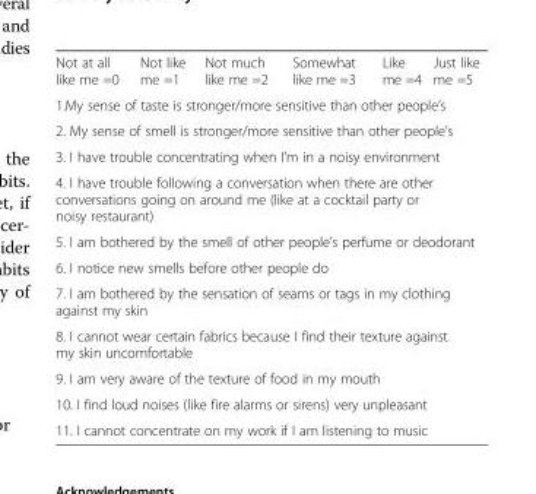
<table><tbody><tr><td>Not at all like me =0</td><td>Not like me =1</td><td>Not much like me =2</td><td>Somewhat like me =3</td><td>Like me =4</td><td>Just like me =5</td></tr><tr><td colspan="6">1.My sense of taste is stronger/more sensitive than other people’s</td></tr><tr><td colspan="6">2. My sense of smell is stronger/more sensitive than other people’s</td></tr><tr><td colspan="6">3. I have trouble concentrating when I’m in a noisy environment</td></tr><tr><td colspan="6">4. I have trouble following a conversation when there are other conversations going on around me (like at a cocktail party or noisy restaurant)</td></tr><tr><td colspan="6">5. I am bothered by the smell of other people’s perfume or deodorant</td></tr><tr><td colspan="6">6. I notice new smells before other people do</td></tr><tr><td colspan="6">7. I am bothered by the sensation of seams or tags in my clothing against my skin</td></tr><tr><td colspan="6">8. I cannot wear certain fabrics because I find their texture against my skin uncomfortable</td></tr><tr><td colspan="6">9. I am very aware of the texture of food in my mouth</td></tr><tr><td colspan="6">10. I find loud noises (like fire alarms or sirens) very unpleasant</td></tr><tr><td colspan="6">11. I cannot concentrate on my work if I am listening to music</td></tr></tbody></table>